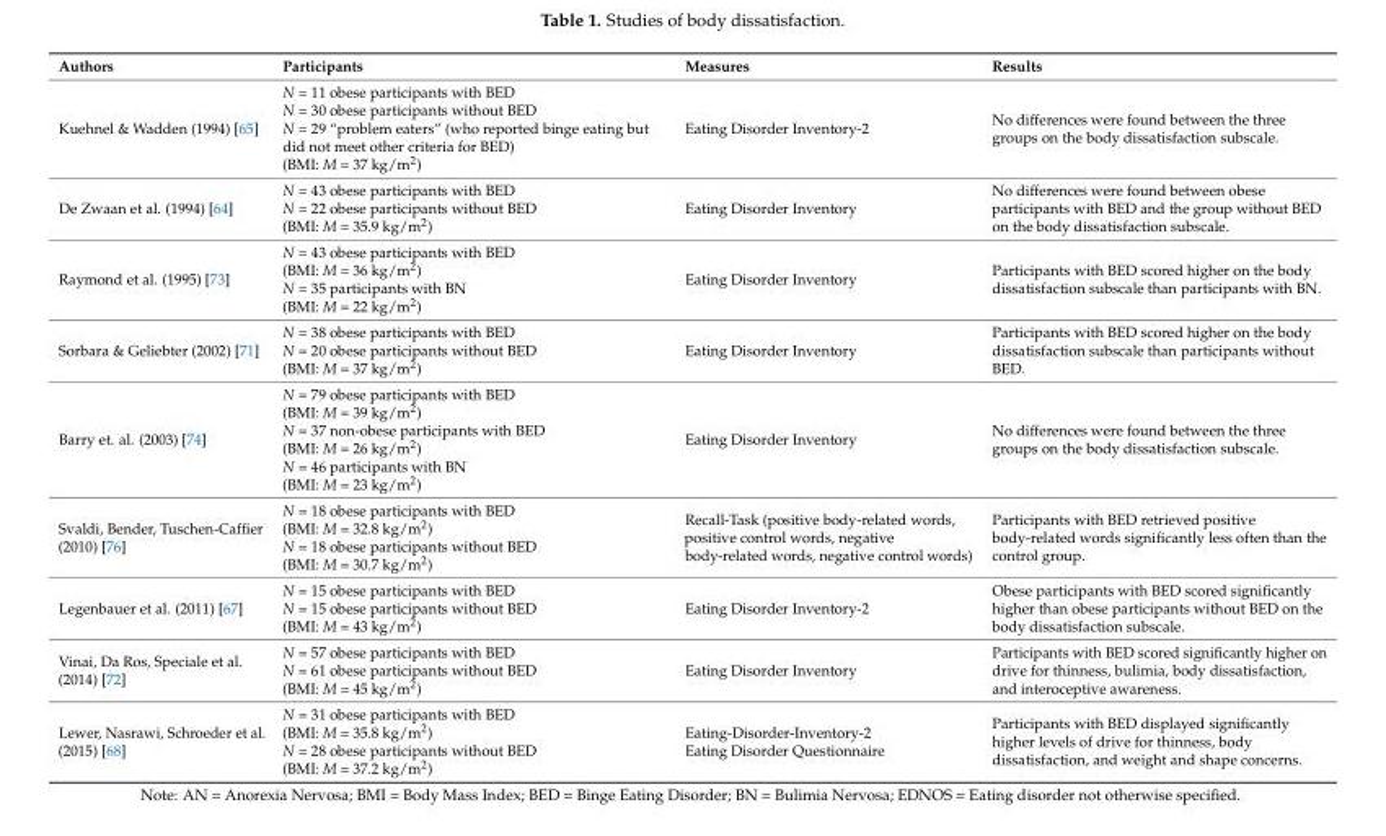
<table><thead><tr><td>Authors</td><td>Participants</td><td>Measures</td><td>Results</td></tr></thead><tbody><tr><td>Kuehnel &amp; Wadden (1994) [65]</td><td>N = 11 obese participants with BED N = 30 obese participants without BED N = 29 “problem eaters” (who reported binge eating but did not meet other criteria for BED) (BMI: M = 37 kg/m<sup>2</sup>)</td><td>Eating Disorder Inventory-2</td><td>No differences were found between the three groups on the body dissatisfaction subscale.</td></tr><tr><td>De Zwaan et al. (1994) [64]</td><td>N = 43 obese participants with BED N = 22 obese participants without BED (BMI: M = 35.9 kg/m<sup>2</sup>)</td><td>Eating Disorder Inventory</td><td>No differences were found between obese participants with BED and the group without BED on the body dissatisfaction subscale.</td></tr><tr><td>Raymond et al. (1995) [73]</td><td>N = 43 obese participants with BED (BMI: M = 36 kg/m<sup>2</sup>) N = 35 participants with BN (BMI: M = 22 kg/m<sup>2</sup>)</td><td>Eating Disorder Inventory</td><td>Participants with BED scored higher on the body dissatisfaction subscale than participants with BN.</td></tr><tr><td>Sorbara &amp; Geliebter (2002) [71]</td><td>N = 38 obese participants with BED N = 20 obese participants without BED (BMI: M = 37 kg/m<sup>2</sup>)</td><td>Eating Disorder Inventory</td><td>Participants with BED scored higher on the body dissatisfaction subscale than participants without BED.</td></tr><tr><td>Barry et. al. (2003) [74]</td><td>N = 79 obese participants with BED (BMI: M = 39 kg/m<sup>2</sup>) N = 37 non-obese participants with BED (BMI: M = 26 kg/m<sup>2</sup>) N = 46 participants with BN (BMI: M = 23 kg/m<sup>2</sup>)</td><td>Eating Disorder Inventory</td><td>No differences were found between the three groups on the body dissatisfaction subscale.</td></tr><tr><td>Svaldi, Bender, Tuschen-Caffier (2010) [76]</td><td>N = 18 obese participants with BED (BMI: M = 32.8 kg/m<sup>2</sup>) N = 18 obese participants without BED (BMI: M = 30.7 kg/m<sup>2</sup>)</td><td>Recall-Task (positive body-related words, positive control words, negative body-related words, negative control words)</td><td>Participants with BED retrieved positive body-related words significantly less often than the control group.</td></tr><tr><td>Legenbauer et al. (2011) [67]</td><td>N = 15 obese participants with BED N = 15 obese participants without BED (BMI: M = 43 kg/m<sup>2</sup>)</td><td>Eating Disorder Inventory-2</td><td>Obese participants with BED scored significantly higher than obese participants without BED on the body dissatisfaction subscale.</td></tr><tr><td>Vinai, Da Ros, Speciale et al. (2014) [72]</td><td>N = 57 obese participants with BED N = 61 obese participants without BED (BMI: M = 45 kg/m<sup>2</sup>)</td><td>Eating Disorder Inventory</td><td>Participants with BED scored significantly higher on drive for thinness, bulimia, body dissatisfaction, and interoceptive awareness.</td></tr><tr><td>Lewer, Nasrawi, Schroeder et al. (2015) [68]</td><td>N = 31 obese participants with BED (BMI: M = 35.8 kg/m<sup>2</sup>) N = 28 obese participants without BED (BMI: M = 37.2 kg/m<sup>2</sup>)</td><td>Eating-Disorder-Inventory-2 Eating Disorder Questionnaire</td><td>Participants with BED displayed significantly higher levels of drive for thinness, body dissatisfaction, and weight and shape concerns.</td></tr></tbody></table>